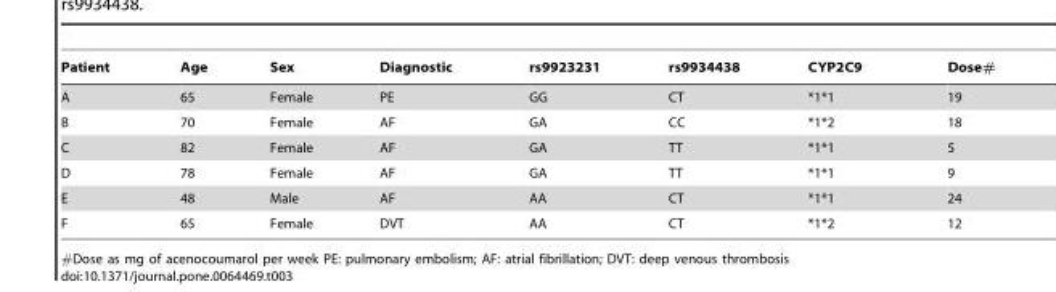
<table><thead><tr><td>Patient</td><td>Age</td><td>Sex</td><td>Diagnostic</td><td>rs9923231</td><td>rs9934438</td><td>CYP2C9</td><td>Dose#</td></tr></thead><tbody><tr><td>A</td><td>65</td><td>Female</td><td>PE</td><td>GG</td><td>CT</td><td>*1*1</td><td>19</td></tr><tr><td>B</td><td>70</td><td>Female</td><td>AF</td><td>GA</td><td>CC</td><td>*1*2</td><td>18</td></tr><tr><td>C</td><td>82</td><td>Female</td><td>AF</td><td>GA</td><td>TT</td><td>*1*1</td><td>5</td></tr><tr><td>D</td><td>78</td><td>Female</td><td>AF</td><td>GA</td><td>TT</td><td>*1*1</td><td>9</td></tr><tr><td>E</td><td>48</td><td>Male</td><td>AF</td><td>AA</td><td>CT</td><td>*1*1</td><td>24</td></tr><tr><td>F</td><td>65</td><td>Female</td><td>DVT</td><td>AA</td><td>CT</td><td>*1*2</td><td>12</td></tr></tbody></table>